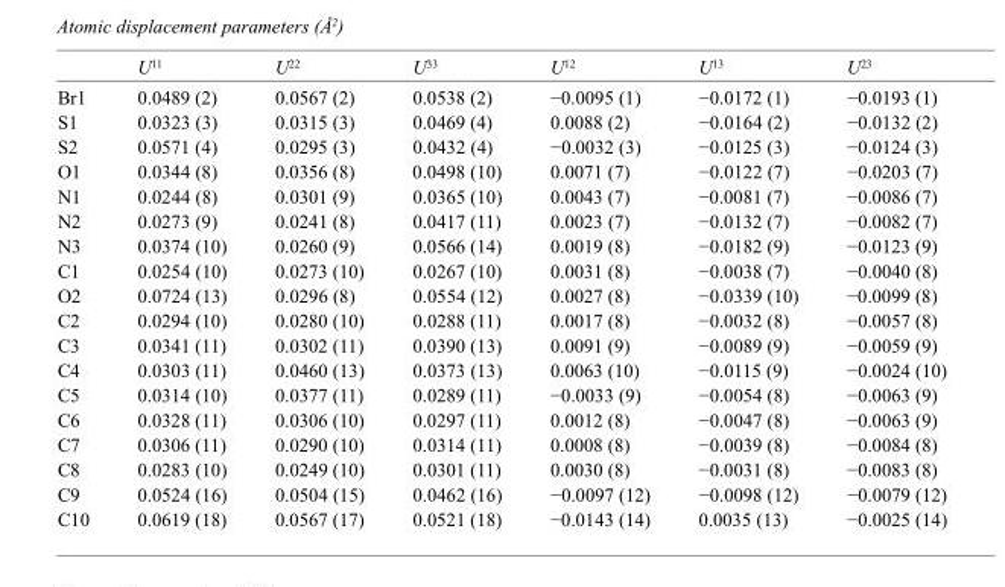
<table><thead><tr><td></td><td>U<sup>11</sup></td><td>U<sup>22</sup></td><td>U<sup>33</sup></td><td>U<sup>12</sup></td><td>U<sup>13</sup></td><td>U<sup>23</sup></td></tr></thead><tbody><tr><td>Br1</td><td>0.0489 (2)</td><td>0.0567 (2)</td><td>0.0538 (2)</td><td>−0.0095 (1)</td><td>−0.0172 (1)</td><td>−0.0193 (1)</td></tr><tr><td>S1</td><td>0.0323 (3)</td><td>0.0315 (3)</td><td>0.0469 (4)</td><td>0.0088 (2)</td><td>−0.0164 (2)</td><td>−0.0132 (2)</td></tr><tr><td>S2</td><td>0.0571 (4)</td><td>0.0295 (3)</td><td>0.0432 (4)</td><td>−0.0032 (3)</td><td>−0.0125 (3)</td><td>−0.0124 (3)</td></tr><tr><td>O1</td><td>0.0344 (8)</td><td>0.0356 (8)</td><td>0.0498 (10)</td><td>0.0071 (7)</td><td>−0.0122 (7)</td><td>−0.0203 (7)</td></tr><tr><td>N1</td><td>0.0244 (8)</td><td>0.0301 (9)</td><td>0.0365 (10)</td><td>0.0043 (7)</td><td>−0.0081 (7)</td><td>−0.0086 (7)</td></tr><tr><td>N2</td><td>0.0273 (9)</td><td>0.0241 (8)</td><td>0.0417 (11)</td><td>0.0023 (7)</td><td>−0.0132 (7)</td><td>−0.0082 (7)</td></tr><tr><td>N3</td><td>0.0374 (10)</td><td>0.0260 (9)</td><td>0.0566 (14)</td><td>0.0019 (8)</td><td>−0.0182 (9)</td><td>−0.0123 (9)</td></tr><tr><td>C1</td><td>0.0254 (10)</td><td>0.0273 (10)</td><td>0.0267 (10)</td><td>0.0031 (8)</td><td>−0.0038 (7)</td><td>−0.0040 (8)</td></tr><tr><td>O2</td><td>0.0724 (13)</td><td>0.0296 (8)</td><td>0.0554 (12)</td><td>0.0027 (8)</td><td>−0.0339 (10)</td><td>−0.0099 (8)</td></tr><tr><td>C2</td><td>0.0294 (10)</td><td>0.0280 (10)</td><td>0.0288 (11)</td><td>0.0017 (8)</td><td>−0.0032 (8)</td><td>−0.0057 (8)</td></tr><tr><td>C3</td><td>0.0341 (11)</td><td>0.0302 (11)</td><td>0.0390 (13)</td><td>0.0091 (9)</td><td>−0.0089 (9)</td><td>−0.0059 (9)</td></tr><tr><td>C4</td><td>0.0303 (11)</td><td>0.0460 (13)</td><td>0.0373 (13)</td><td>0.0063 (10)</td><td>−0.0115 (9)</td><td>−0.0024 (10)</td></tr><tr><td>C5</td><td>0.0314 (10)</td><td>0.0377 (11)</td><td>0.0289 (11)</td><td>−0.0033 (9)</td><td>−0.0054 (8)</td><td>−0.0063 (9)</td></tr><tr><td>C6</td><td>0.0328 (11)</td><td>0.0306 (10)</td><td>0.0297 (11)</td><td>0.0012 (8)</td><td>−0.0047 (8)</td><td>−0.0063 (9)</td></tr><tr><td>C7</td><td>0.0306 (11)</td><td>0.0290 (10)</td><td>0.0314 (11)</td><td>0.0008 (8)</td><td>−0.0039 (8)</td><td>−0.0084 (8)</td></tr><tr><td>C8</td><td>0.0283 (10)</td><td>0.0249 (10)</td><td>0.0301 (11)</td><td>0.0030 (8)</td><td>−0.0031 (8)</td><td>−0.0083 (8)</td></tr><tr><td>C9</td><td>0.0524 (16)</td><td>0.0504 (15)</td><td>0.0462 (16)</td><td>−0.0097 (12)</td><td>−0.0098 (12)</td><td>−0.0079 (12)</td></tr><tr><td>C10</td><td>0.0619 (18)</td><td>0.0567 (17)</td><td>0.0521 (18)</td><td>−0.0143 (14)</td><td>0.0035 (13)</td><td>−0.0025 (14)</td></tr></tbody></table>